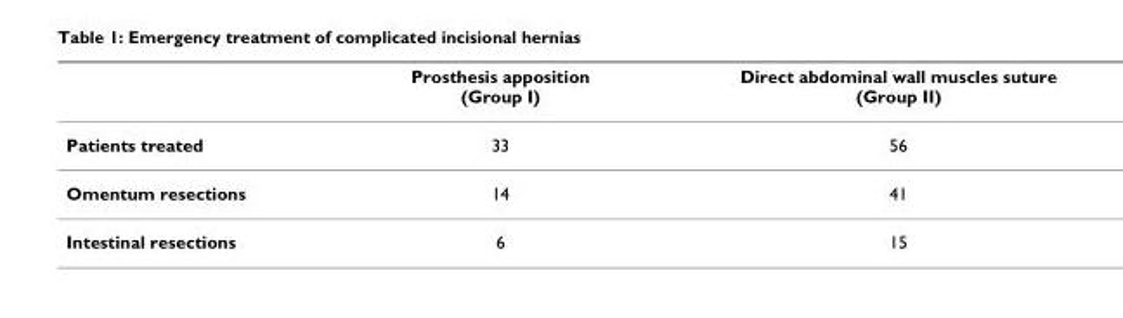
<table><thead><tr><td></td><td>Prosthesis apposition (Group I)</td><td>Direct abdominal wall muscles suture (Group II)</td></tr></thead><tbody><tr><td>Patients treated</td><td>33</td><td>56</td></tr><tr><td>Omentum resections</td><td>14</td><td>41</td></tr><tr><td>Intestinal resections</td><td>6</td><td>15</td></tr></tbody></table>